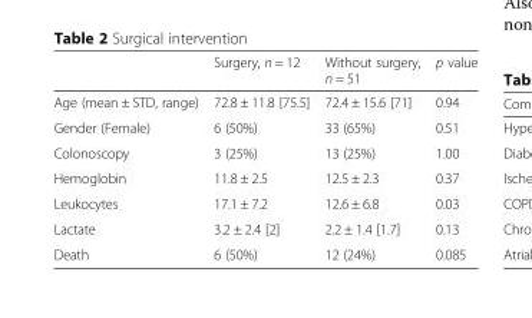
<table><thead><tr><td></td><td>Surgery, n = 12</td><td>Without surgery, n = 51</td><td>p value</td></tr></thead><tbody><tr><td>Age (mean ± STD, range)</td><td>72.8 ± 11.8 [75.5]</td><td>72.4 ± 15.6 [71]</td><td>0.94</td></tr><tr><td>Gender (Female)</td><td>6 (50%)</td><td>33 (65%)</td><td>0.51</td></tr><tr><td>Colonoscopy</td><td>3 (25%)</td><td>13 (25%)</td><td>1.00</td></tr><tr><td>Hemoglobin</td><td>11.8 ± 2.5</td><td>12.5 ± 2.3</td><td>0.37</td></tr><tr><td>Leukocytes</td><td>17.1 ± 7.2</td><td>12.6 ± 6.8</td><td>0.03</td></tr><tr><td>Lactate</td><td>3.2 ± 2.4 [2]</td><td>2.2 ± 1.4 [1.7]</td><td>0.13</td></tr><tr><td>Death</td><td>6 (50%)</td><td>12 (24%)</td><td>0.085</td></tr></tbody></table>